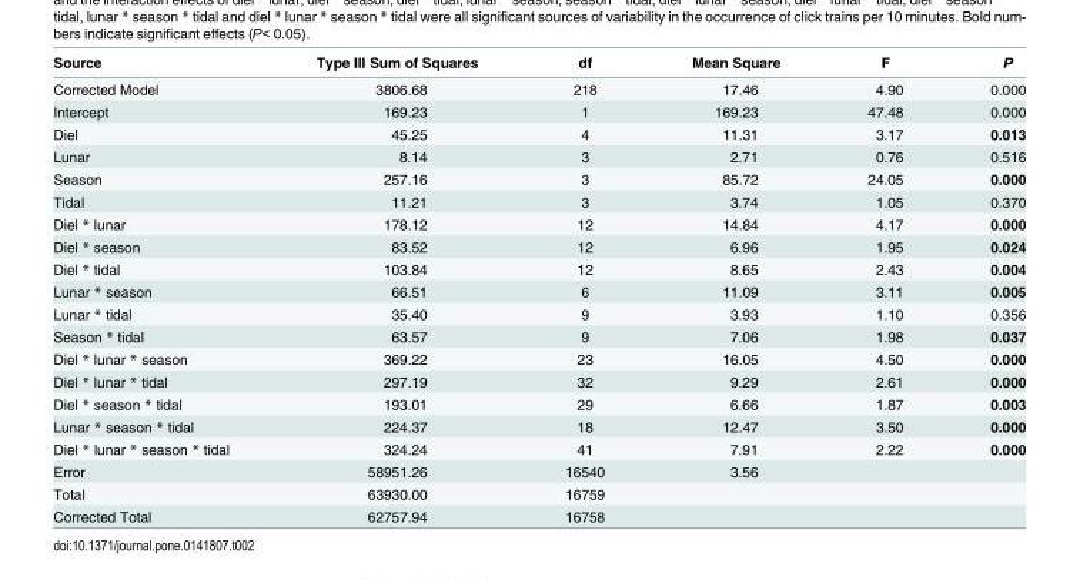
<table><thead><tr><td>Source</td><td>Type III Sum of Squares</td><td>df</td><td>Mean Square</td><td>F</td><td>P</td></tr></thead><tbody><tr><td>Corrected Model</td><td>3806.68</td><td>218</td><td>17.46</td><td>4.90</td><td>0.000</td></tr><tr><td>Intercept</td><td>169.23</td><td>1</td><td>169.23</td><td>47.48</td><td>0.000</td></tr><tr><td>Diel</td><td>45.25</td><td>4</td><td>11.31</td><td>3.17</td><td>0.013</td></tr><tr><td>Lunar</td><td>8.14</td><td>3</td><td>2.71</td><td>0.76</td><td>0.516</td></tr><tr><td>Season</td><td>257.16</td><td>3</td><td>85.72</td><td>24.05</td><td>0.000</td></tr><tr><td>Tidal</td><td>11.21</td><td>3</td><td>3.74</td><td>1.05</td><td>0.370</td></tr><tr><td>Diel * lunar</td><td>178.12</td><td>12</td><td>14.84</td><td>4.17</td><td>0.000</td></tr><tr><td>Diel * season</td><td>83.52</td><td>12</td><td>6.96</td><td>1.95</td><td>0.024</td></tr><tr><td>Diel * tidal</td><td>103.84</td><td>12</td><td>8.65</td><td>2.43</td><td>0.004</td></tr><tr><td>Lunar * season</td><td>66.51</td><td>6</td><td>11.09</td><td>3.11</td><td>0.005</td></tr><tr><td>Lunar * tidal</td><td>35.40</td><td>9</td><td>3.93</td><td>1.10</td><td>0.356</td></tr><tr><td>Season * tidal</td><td>63.57</td><td>9</td><td>7.06</td><td>1.98</td><td>0.037</td></tr><tr><td>Diel * lunar * season</td><td>369.22</td><td>23</td><td>16.05</td><td>4.50</td><td>0.000</td></tr><tr><td>Diel * lunar * tidal</td><td>297.19</td><td>32</td><td>9.29</td><td>2.61</td><td>0.000</td></tr><tr><td>Diel * season * tidal</td><td>193.01</td><td>29</td><td>6.66</td><td>1.87</td><td>0.003</td></tr><tr><td>Lunar * season * tidal</td><td>224.37</td><td>18</td><td>12.47</td><td>3.50</td><td>0.000</td></tr><tr><td>Diel * lunar * season * tidal</td><td>324.24</td><td>41</td><td>7.91</td><td>2.22</td><td>0.000</td></tr><tr><td>Error</td><td>58951.26</td><td>16540</td><td>3.56</td><td></td><td></td></tr><tr><td>Total</td><td>63930.00</td><td>16759</td><td></td><td></td><td></td></tr><tr><td>Corrected Total</td><td>62757.94</td><td>16758</td><td></td><td></td><td></td></tr></tbody></table>